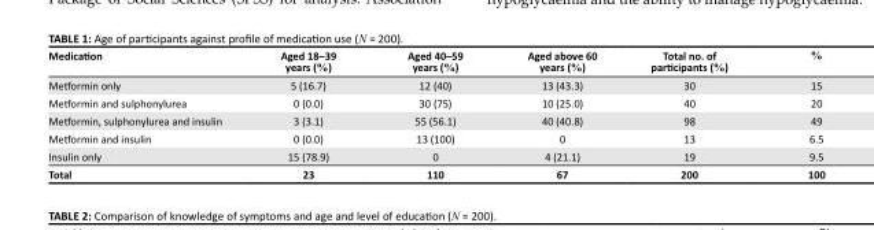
<table><thead><tr><td>Medication</td><td>Aged 18–39 years (%)</td><td>Aged 40–59 years (%)</td><td>Aged above 60 years (%)</td><td>Total no. of participants (%)</td><td>%</td></tr></thead><tbody><tr><td>Metformin only</td><td>5 (16.7)</td><td>12 (40)</td><td>13 (43.3)</td><td>30</td><td>15</td></tr><tr><td>Metformin and sulphonylurea</td><td>0 (0.0)</td><td>30 (75)</td><td>10 (25.0)</td><td>40</td><td>20</td></tr><tr><td>Metformin, sulphonylurea and insulin</td><td>3 (3.1)</td><td>55 (56.1)</td><td>40 (40.8)</td><td>98</td><td>49</td></tr><tr><td>Metformin and insulin</td><td>0 (0.0)</td><td>13 (100)</td><td>0</td><td>13</td><td>6.5</td></tr><tr><td>Insulin only</td><td>15 (78.9)</td><td>0</td><td>4 (21.1)</td><td>19</td><td>9.5</td></tr><tr><td>Total</td><td>23</td><td>110</td><td>67</td><td>200</td><td>100</td></tr></tbody></table>